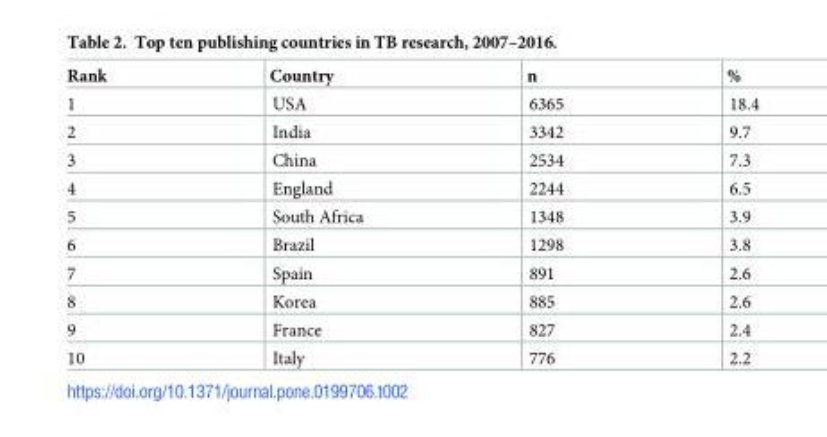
<table><thead><tr><td>Rank</td><td>Country</td><td>n</td><td>%</td></tr></thead><tbody><tr><td>1</td><td>USA</td><td>6365</td><td>18.4</td></tr><tr><td>2</td><td>India</td><td>3342</td><td>9.7</td></tr><tr><td>3</td><td>China</td><td>2534</td><td>7.3</td></tr><tr><td>4</td><td>England</td><td>2244</td><td>6.5</td></tr><tr><td>5</td><td>South Africa</td><td>1348</td><td>3.9</td></tr><tr><td>6</td><td>Brazil</td><td>1298</td><td>3.8</td></tr><tr><td>7</td><td>Spain</td><td>891</td><td>2.6</td></tr><tr><td>8</td><td>Korea</td><td>885</td><td>2.6</td></tr><tr><td>9</td><td>France</td><td>827</td><td>2.4</td></tr><tr><td>10</td><td>Italy</td><td>776</td><td>2.2</td></tr></tbody></table>